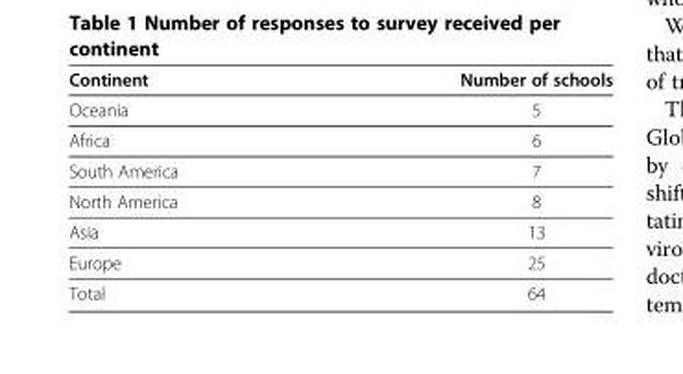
<table><thead><tr><td>Continent</td><td>Number of schools</td></tr></thead><tbody><tr><td>Oceania</td><td>5</td></tr><tr><td>Africa</td><td>6</td></tr><tr><td>South America</td><td>7</td></tr><tr><td>North America</td><td>8</td></tr><tr><td>Asia</td><td>13</td></tr><tr><td>Europe</td><td>25</td></tr><tr><td>Total</td><td>64</td></tr></tbody></table>